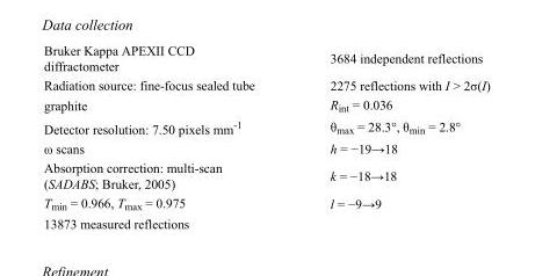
<table><tbody><tr><td>Bruker Kappa APEXII CCD diffractometer</td><td>3684 independent reflections</td></tr><tr><td>Radiation source: fine-focus sealed tube</td><td>2275 reflections with I &gt; 2σ(I)</td></tr><tr><td>graphite</td><td>R<sub>int</sub> = 0.036</td></tr><tr><td>Detector resolution: 7.50 pixels mm<sup>-1</sup></td><td>θ<sub>max</sub> = 28.3°, θ<sub>min</sub> = 2.8°</td></tr><tr><td>ω scans</td><td>h = −19→18</td></tr><tr><td>Absorption correction: multi-scan (SADABS; Bruker, 2005)</td><td>k = −18→18</td></tr><tr><td>T<sub>min</sub> = 0.966, T<sub>max</sub> = 0.975</td><td>l = −9→9</td></tr><tr><td>13873 measured reflections</td><td></td></tr></tbody></table>